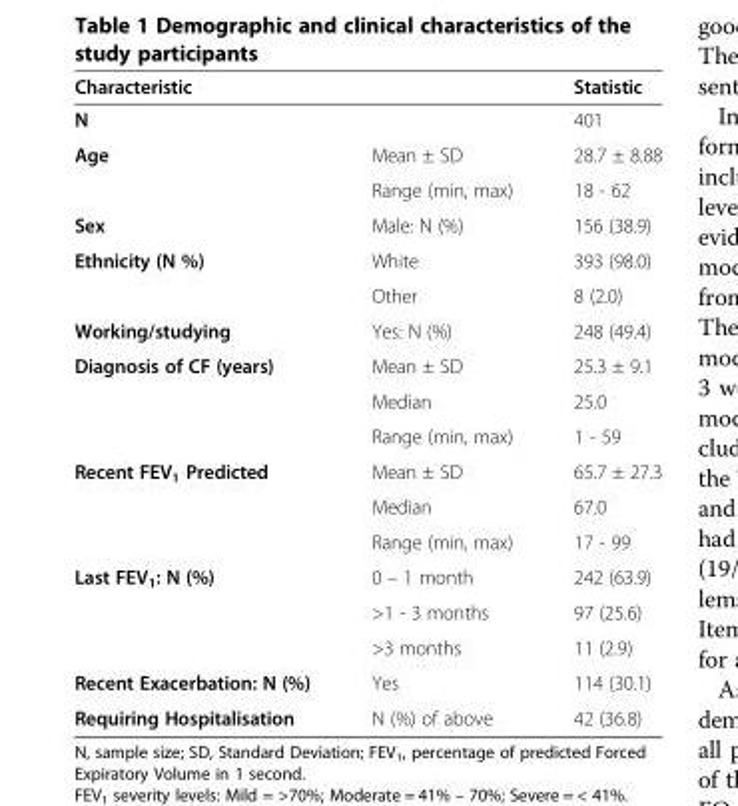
<table><thead><tr><td colspan="2">Characteristic</td><td rowspan="2">Statistic 401</td></tr><tr><td>N</td><td></td></tr></thead><tbody><tr><td rowspan="2">Age</td><td>Mean ± SD</td><td>28.7 ± 8.88</td></tr><tr><td>Range (min, max)</td><td>18 - 62</td></tr><tr><td>Sex</td><td>Male: N (%)</td><td>156 (38.9)</td></tr><tr><td rowspan="2">Ethnicity (N %)</td><td>White</td><td>393 (98.0)</td></tr><tr><td>Other</td><td>8 (2.0)</td></tr><tr><td>Working/studying</td><td>Yes: N (%)</td><td>248 (49.4)</td></tr><tr><td rowspan="3">Diagnosis of CF (years)</td><td>Mean ± SD</td><td>25.3 ± 9.1</td></tr><tr><td>Median</td><td>25.0</td></tr><tr><td>Range (min, max)</td><td>1 - 59</td></tr><tr><td rowspan="3">Recent FEV<sub>1</sub> Predicted</td><td>Mean ± SD</td><td>65.7 ± 27.3</td></tr><tr><td>Median</td><td>67.0</td></tr><tr><td>Range (min, max)</td><td>17 - 99</td></tr><tr><td rowspan="3">Last FEV<sub>1</sub>: N (%)</td><td>0 – 1 month</td><td>242 (63.9)</td></tr><tr><td>&gt;1 - 3 months</td><td>97 (25.6)</td></tr><tr><td>&gt;3 months</td><td>11 (2.9)</td></tr><tr><td>Recent Exacerbation: N (%)</td><td>Yes</td><td>114 (30.1)</td></tr><tr><td>Requiring Hospitalisation</td><td>N (%) of above</td><td>42 (36.8)</td></tr></tbody></table>